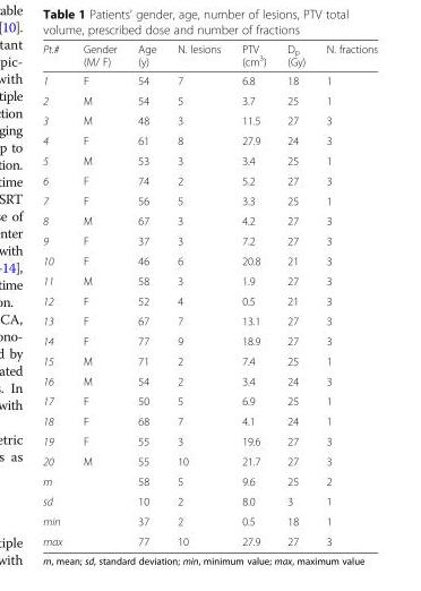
<table><thead><tr><td>Pt.#</td><td>Gender (M/ F)</td><td>Age (y)</td><td>N. lesions</td><td>PTV (cm<sup>3</sup>)</td><td>D<sub>p</sub> (Gy)</td><td>N. fractions</td></tr></thead><tbody><tr><td>1</td><td>F</td><td>54</td><td>7</td><td>6.8</td><td>18</td><td>1</td></tr><tr><td>2</td><td>M</td><td>54</td><td>5</td><td>3.7</td><td>25</td><td>1</td></tr><tr><td>3</td><td>M</td><td>48</td><td>3</td><td>11.5</td><td>27</td><td>3</td></tr><tr><td>4</td><td>F</td><td>61</td><td>8</td><td>27.9</td><td>24</td><td>3</td></tr><tr><td>5</td><td>M</td><td>53</td><td>3</td><td>3.4</td><td>25</td><td>1</td></tr><tr><td>6</td><td>F</td><td>74</td><td>2</td><td>5.2</td><td>27</td><td>3</td></tr><tr><td>7</td><td>F</td><td>56</td><td>5</td><td>3.3</td><td>25</td><td>1</td></tr><tr><td>8</td><td>M</td><td>67</td><td>3</td><td>4.2</td><td>27</td><td>3</td></tr><tr><td>9</td><td>F</td><td>37</td><td>3</td><td>7.2</td><td>27</td><td>3</td></tr><tr><td>10</td><td>F</td><td>46</td><td>6</td><td>20.8</td><td>21</td><td>3</td></tr><tr><td>11</td><td>M</td><td>58</td><td>3</td><td>1.9</td><td>27</td><td>3</td></tr><tr><td>12</td><td>F</td><td>52</td><td>4</td><td>0.5</td><td>21</td><td>3</td></tr><tr><td>13</td><td>F</td><td>67</td><td>7</td><td>13.1</td><td>27</td><td>3</td></tr><tr><td>14</td><td>F</td><td>77</td><td>9</td><td>18.9</td><td>27</td><td>3</td></tr><tr><td>15</td><td>M</td><td>71</td><td>2</td><td>7.4</td><td>25</td><td>1</td></tr><tr><td>16</td><td>M</td><td>54</td><td>2</td><td>3.4</td><td>24</td><td>3</td></tr><tr><td>17</td><td>F</td><td>50</td><td>5</td><td>6.9</td><td>25</td><td>1</td></tr><tr><td>18</td><td>F</td><td>68</td><td>7</td><td>4.1</td><td>24</td><td>1</td></tr><tr><td>19</td><td>F</td><td>55</td><td>3</td><td>19.6</td><td>27</td><td>3</td></tr><tr><td>20</td><td>M</td><td>55</td><td>10</td><td>21.7</td><td>27</td><td>3</td></tr><tr><td>m</td><td></td><td>58</td><td>5</td><td>9.6</td><td>25</td><td>2</td></tr><tr><td>sd</td><td></td><td>10</td><td>2</td><td>8.0</td><td>3</td><td>1</td></tr><tr><td>min</td><td></td><td>37</td><td>2</td><td>0.5</td><td>18</td><td>1</td></tr><tr><td>max</td><td></td><td>77</td><td>10</td><td>27.9</td><td>27</td><td>3</td></tr></tbody></table>